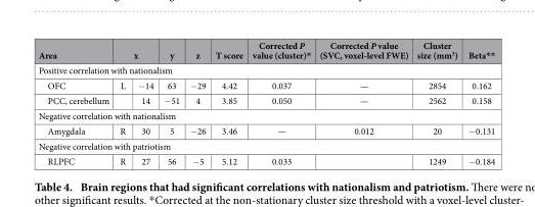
<table><thead><tr><td>Area</td><td colspan="2">x</td><td>y</td><td>z</td><td>T score</td><td>Corrected P value (cluster)*</td><td>Corrected P value (SVC, voxel-level FWE)</td><td>Cluster size (mm<sup>3</sup>)</td><td>Beta**</td></tr><tr><td colspan="10">Positive correlation with nationalism</td></tr><tr><td>OFC</td><td>L</td><td>− 14</td><td>63</td><td>− 29</td><td>4.42</td><td>0.037</td><td>—</td><td>2854</td><td>0.162</td></tr></thead><tbody><tr><td>PCC, cerebellum</td><td></td><td>14</td><td>− 51</td><td>4</td><td>3.85</td><td>0.050</td><td>—</td><td>2562</td><td>0.158</td></tr><tr><td colspan="10">Negative correlation with nationalism</td></tr><tr><td>Amygdala</td><td>R</td><td>30</td><td>5</td><td>− 26</td><td>3.46</td><td>—</td><td>0.012</td><td>20</td><td>− 0.131</td></tr><tr><td colspan="10">Negative correlation with patriotism</td></tr><tr><td>RLPFC</td><td>R</td><td>27</td><td>56</td><td>− 5</td><td>5.12</td><td>0.033</td><td></td><td>1249</td><td>− 0.184</td></tr></tbody></table>